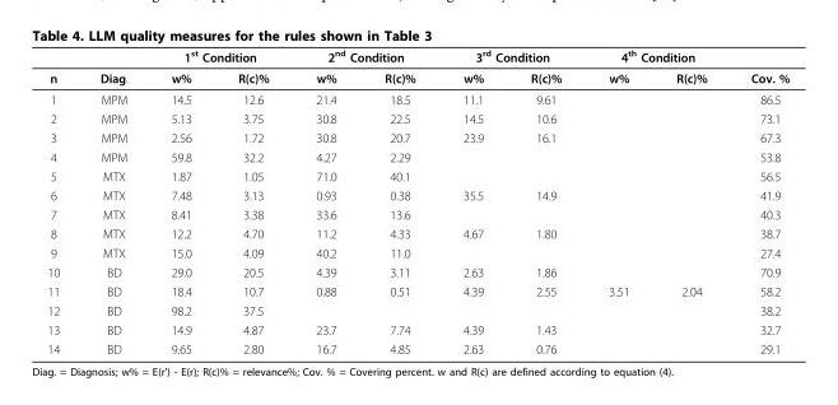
<table><thead><tr><td rowspan="2">n</td><td rowspan="2">Diag.</td><td colspan="2">1<sup>st</sup> Condition</td><td colspan="2">2<sup>nd</sup> Condition</td><td colspan="2">3<sup>rd</sup> Condition</td><td colspan="2">4<sup>th</sup> Condition</td><td rowspan="2">Cov. %</td></tr><tr><td>w%</td><td>R(c)%</td><td>w%</td><td>R(c)%</td><td>w%</td><td>R(c)%</td><td>w%</td><td>R(c)%</td></tr></thead><tbody><tr><td>1</td><td>MPM</td><td>14.5</td><td>12.6</td><td>21.4</td><td>18.5</td><td>11.1</td><td>9.61</td><td></td><td></td><td>86.5</td></tr><tr><td>2</td><td>MPM</td><td>5.13</td><td>3.75</td><td>30.8</td><td>22.5</td><td>14.5</td><td>10.6</td><td></td><td></td><td>73.1</td></tr><tr><td>3</td><td>MPM</td><td>2.56</td><td>1.72</td><td>30.8</td><td>20.7</td><td>23.9</td><td>16.1</td><td></td><td></td><td>67.3</td></tr><tr><td>4</td><td>MPM</td><td>59.8</td><td>32.2</td><td>4.27</td><td>2.29</td><td></td><td></td><td></td><td></td><td>53.8</td></tr><tr><td>5</td><td>MTX</td><td>1.87</td><td>1.05</td><td>71.0</td><td>40.1</td><td></td><td></td><td></td><td></td><td>56.5</td></tr><tr><td>6</td><td>MTX</td><td>7.48</td><td>3.13</td><td>0.93</td><td>0.38</td><td>35.5</td><td>14.9</td><td></td><td></td><td>41.9</td></tr><tr><td>7</td><td>MTX</td><td>8.41</td><td>3.38</td><td>33.6</td><td>13.6</td><td></td><td></td><td></td><td></td><td>40.3</td></tr><tr><td>8</td><td>MTX</td><td>12.2</td><td>4.70</td><td>11.2</td><td>4.33</td><td>4.67</td><td>1.80</td><td></td><td></td><td>38.7</td></tr><tr><td>9</td><td>MTX</td><td>15.0</td><td>4.09</td><td>40.2</td><td>11.0</td><td></td><td></td><td></td><td></td><td>27.4</td></tr><tr><td>10</td><td>BD</td><td>29.0</td><td>20.5</td><td>4.39</td><td>3.11</td><td>2.63</td><td>1.86</td><td></td><td></td><td>70.9</td></tr><tr><td>11</td><td>BD</td><td>18.4</td><td>10.7</td><td>0.88</td><td>0.51</td><td>4.39</td><td>2.55</td><td>3.51</td><td>2.04</td><td>58.2</td></tr><tr><td>12</td><td>BD</td><td>98.2</td><td>37.5</td><td></td><td></td><td></td><td></td><td></td><td></td><td>38.2</td></tr><tr><td>13</td><td>BD</td><td>14.9</td><td>4.87</td><td>23.7</td><td>7.74</td><td>4.39</td><td>1.43</td><td></td><td></td><td>32.7</td></tr><tr><td>14</td><td>BD</td><td>9.65</td><td>2.80</td><td>16.7</td><td>4.85</td><td>2.63</td><td>0.76</td><td></td><td></td><td>29.1</td></tr></tbody></table>